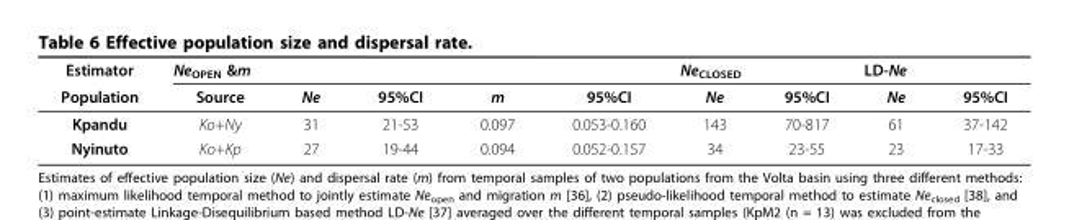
<table><thead><tr><td rowspan="2">Estimator Population</td><td colspan="5">Ne<sub>OPEN</sub> &amp;m</td><td colspan="2">Ne<sub>CLOSED</sub></td><td colspan="2">LD-Ne</td></tr><tr><td>Source</td><td>Ne</td><td>95%CI</td><td>m</td><td>95%CI</td><td>Ne</td><td>95%CI</td><td>Ne</td><td>95%CI</td></tr></thead><tbody><tr><td>Kpandu</td><td>Ko+Ny</td><td>31</td><td>21-53</td><td>0.097</td><td>0.053-0.160</td><td>143</td><td>70-817</td><td>61</td><td>37-142</td></tr><tr><td>Nyinuto</td><td>Ko+Kp</td><td>27</td><td>19-44</td><td>0.094</td><td>0.052-0.157</td><td>34</td><td>23-55</td><td>23</td><td>17-33</td></tr></tbody></table>